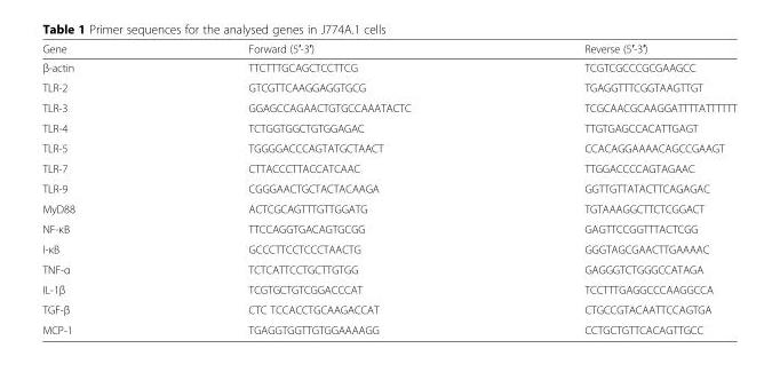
<table><thead><tr><td>Gene</td><td>Forward (5′-3′)</td><td>Reverse (5′-3′)</td></tr></thead><tbody><tr><td>β-actin</td><td>TTCTTTGCAGCTCCTTCG</td><td>TCGTCGCCCGCGAAGCC</td></tr><tr><td>TLR-2</td><td>GTCGTTCAAGGAGGTGCG</td><td>TGAGGTTTCGGTAAGTTGT</td></tr><tr><td>TLR-3</td><td>GGAGCCAGAACTGTGCCAAATACTC</td><td>TCGCAACGCAAGGATTTTATTTTTT</td></tr><tr><td>TLR-4</td><td>TCTGGTGGCTGTGGAGAC</td><td>TTGTGAGCCACATTGAGT</td></tr><tr><td>TLR-5</td><td>TGGGGACCCAGTATGCTAACT</td><td>CCACAGGAAAACAGCCGAAGT</td></tr><tr><td>TLR-7</td><td>CTTACCCTTACCATCAAC</td><td>TTGGACCCCAGTAGAAC</td></tr><tr><td>TLR-9</td><td>CGGGAACTGCTACTACAAGA</td><td>GGTTGTTATACTTCAGAGAC</td></tr><tr><td>MyD88</td><td>ACTCGCAGTTTGTTGGATG</td><td>TGTAAAGGCTTCTCGGACT</td></tr><tr><td>NF-κB</td><td>TTCCAGGTGACAGTGCGG</td><td>GAGTTCCGGTTTACTCGG</td></tr><tr><td>I-κB</td><td>GCCCTTCCTCCCTAACTG</td><td>GGGTAGCGAACTTGAAAAC</td></tr><tr><td>TNF-α</td><td>TCTCATTCCTGCTTGTGG</td><td>GAGGGTCTGGGCCATAGA</td></tr><tr><td>IL-1β</td><td>TCGTGCTGTCGGACCCAT</td><td>TCCTTTGAGGCCCAAGGCCA</td></tr><tr><td>TGF-β</td><td>CTC TCCACCTGCAAGACCAT</td><td>CTGCCGTACAATTCCAGTGA</td></tr><tr><td>MCP-1</td><td>TGAGGTGGTTGTGGAAAAGG</td><td>CCTGCTGTTCACAGTTGCC</td></tr></tbody></table>